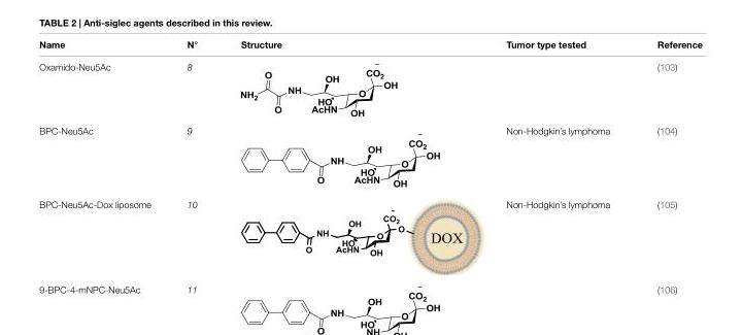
<table><thead><tr><td>Name</td><td>N°</td><td>Structure</td><td>Tumor type tested</td><td>Reference</td></tr></thead><tbody><tr><td>Oxamido-Neu5Ac</td><td>8</td><td></td><td></td><td>(103)</td></tr><tr><td>BPC-Neu5Ac</td><td>9</td><td></td><td>Non-Hodgkin’s lymphoma</td><td>(104)</td></tr><tr><td>BPC-Neu5Ac-Dox liposome</td><td>10</td><td></td><td>Non-Hodgkin’s lymphoma</td><td>(105)</td></tr><tr><td>9-BPC-4-mNPC-Neu5Ac</td><td>11</td><td></td><td></td><td>(106)</td></tr></tbody></table>